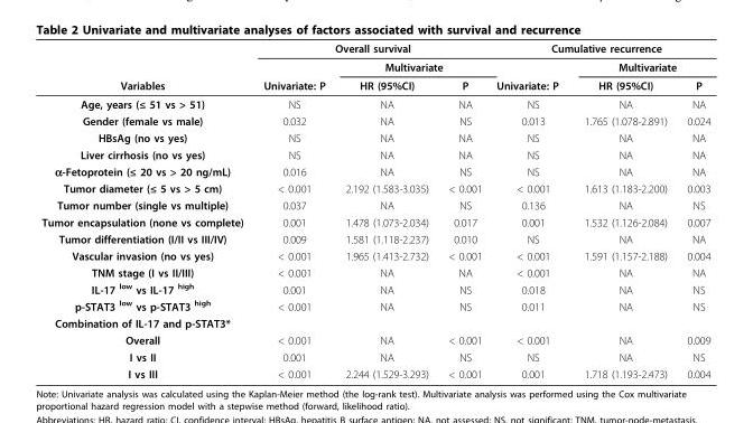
<table><thead><tr><td rowspan="3">Variables</td><td colspan="3">Overall survival</td><td colspan="3">Cumulative recurrence</td></tr><tr><td rowspan="2">Univariate: P</td><td colspan="2">Multivariate</td><td rowspan="2">Univariate: P</td><td colspan="2">Multivariate</td></tr><tr><td>HR (95%CI)</td><td>P</td><td>HR (95%CI)</td><td>P</td></tr></thead><tbody><tr><td>Age, years (≤ 51 vs &gt; 51)</td><td>NS</td><td>NA</td><td>NA</td><td>NS</td><td>NA</td><td>NA</td></tr><tr><td>Gender (female vs male)</td><td>0.032</td><td>NA</td><td>NS</td><td>0.013</td><td>1.765 (1.078-2.891)</td><td>0.024</td></tr><tr><td>HBsAg (no vs yes)</td><td>NS</td><td>NA</td><td>NA</td><td>NS</td><td>NA</td><td>NA</td></tr><tr><td>Liver cirrhosis (no vs yes)</td><td>NS</td><td>NA</td><td>NA</td><td>NS</td><td>NA</td><td>NA</td></tr><tr><td>α-Fetoprotein (≤ 20 vs &gt; 20 ng/mL)</td><td>0.016</td><td>NA</td><td>NS</td><td>NS</td><td>NA</td><td>NA</td></tr><tr><td>Tumor diameter (≤ 5 vs &gt; 5 cm)</td><td>&lt; 0.001</td><td>2.192 (1.583-3.035)</td><td>&lt; 0.001</td><td>&lt; 0.001</td><td>1.613 (1.183-2.200)</td><td>0.003</td></tr><tr><td>Tumor number (single vs multiple)</td><td>0.037</td><td>NA</td><td>NS</td><td>0.136</td><td>NA</td><td>NS</td></tr><tr><td>Tumor encapsulation (none vs complete)</td><td>0.001</td><td>1.478 (1.073-2.034)</td><td>0.017</td><td>0.001</td><td>1.532 (1.126-2.084)</td><td>0.007</td></tr><tr><td>Tumor differentiation (I/II vs III/IV)</td><td>0.009</td><td>1.581 (1.118-2.237)</td><td>0.010</td><td>NS</td><td>NA</td><td>NA</td></tr><tr><td>Vascular invasion (no vs yes)</td><td>&lt; 0.001</td><td>1.965 (1.413-2.732)</td><td>&lt; 0.001</td><td>&lt; 0.001</td><td>1.591 (1.157-2.188)</td><td>0.004</td></tr><tr><td>TNM stage (I vs II/III)</td><td>&lt; 0.001</td><td>NA</td><td>NA</td><td>&lt; 0.001</td><td>NA</td><td>NA</td></tr><tr><td>IL-17 <sup>low</sup> vs IL-17 <sup>high</sup></td><td>0.001</td><td>NA</td><td>NS</td><td>0.018</td><td>NA</td><td>NS</td></tr><tr><td>p-STAT3 <sup>low</sup> vs p-STAT3 <sup>high</sup></td><td>&lt; 0.001</td><td>NA</td><td>NS</td><td>0.011</td><td>NA</td><td>NS</td></tr><tr><td colspan="7">Combination of IL-17 and p-STAT3*</td></tr><tr><td>Overall</td><td>&lt; 0.001</td><td>NA</td><td>&lt; 0.001</td><td>&lt; 0.001</td><td>NA</td><td>0.009</td></tr><tr><td>I vs II</td><td>0.001</td><td>NA</td><td>NS</td><td>NS</td><td>NA</td><td>NS</td></tr><tr><td>I vs III</td><td>&lt; 0.001</td><td>2.244 (1.529-3.293)</td><td>&lt; 0.001</td><td>0.001</td><td>1.718 (1.193-2.473)</td><td>0.004</td></tr></tbody></table>